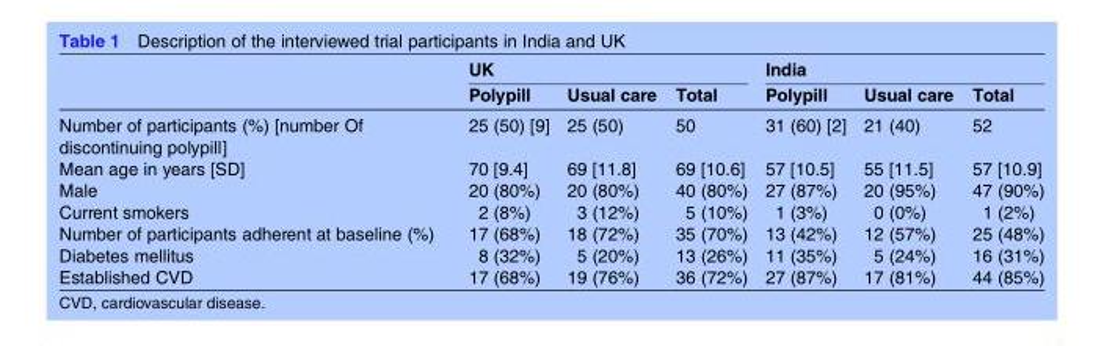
<table><thead><tr><td rowspan="2"></td><td colspan="3">UK</td><td colspan="3">India</td></tr><tr><td>Polypill</td><td>Usual care</td><td>Total</td><td>Polypill</td><td>Usual care</td><td>Total</td></tr></thead><tbody><tr><td>Number of participants (%) [number Of discontinuing polypill]</td><td>25 (50) [9]</td><td>25 (50)</td><td>50</td><td>31 (60) [2]</td><td>21 (40)</td><td>52</td></tr><tr><td>Mean age in years [SD]</td><td>70 [9.4]</td><td>69 [11.8]</td><td>69 [10.6]</td><td>57 [10.5]</td><td>55 [11.5]</td><td>57 [10.9]</td></tr><tr><td>Male</td><td>20 (80%)</td><td>20 (80%)</td><td>40 (80%)</td><td>27 (87%)</td><td>20 (95%)</td><td>47 (90%)</td></tr><tr><td>Current smokers</td><td>2 (8%)</td><td>3 (12%)</td><td>5 (10%)</td><td>1 (3%)</td><td>0 (0%)</td><td>1 (2%)</td></tr><tr><td>Number of participants adherent at baseline (%)</td><td>17 (68%)</td><td>18 (72%)</td><td>35 (70%)</td><td>13 (42%)</td><td>12 (57%)</td><td>25 (48%)</td></tr><tr><td>Diabetes mellitus</td><td>8 (32%)</td><td>5 (20%)</td><td>13 (26%)</td><td>11 (35%)</td><td>5 (24%)</td><td>16 (31%)</td></tr><tr><td>Established CVD</td><td>17 (68%)</td><td>19 (76%)</td><td>36 (72%)</td><td>27 (87%)</td><td>17 (81%)</td><td>44 (85%)</td></tr></tbody></table>